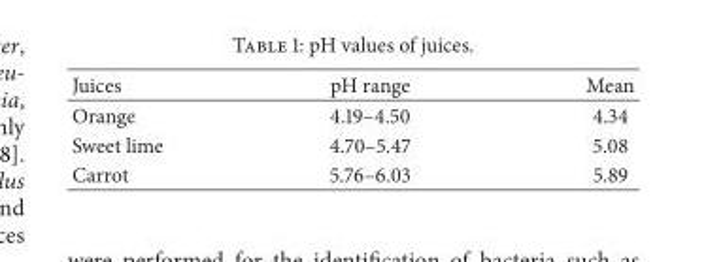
<table><thead><tr><td>Juices</td><td>pH range</td><td>Mean</td></tr></thead><tbody><tr><td>Orange</td><td>4.19–4.50</td><td>4.34</td></tr><tr><td>Sweet lime</td><td>4.70–5.47</td><td>5.08</td></tr><tr><td>Carrot</td><td>5.76–6.03</td><td>5.89</td></tr></tbody></table>